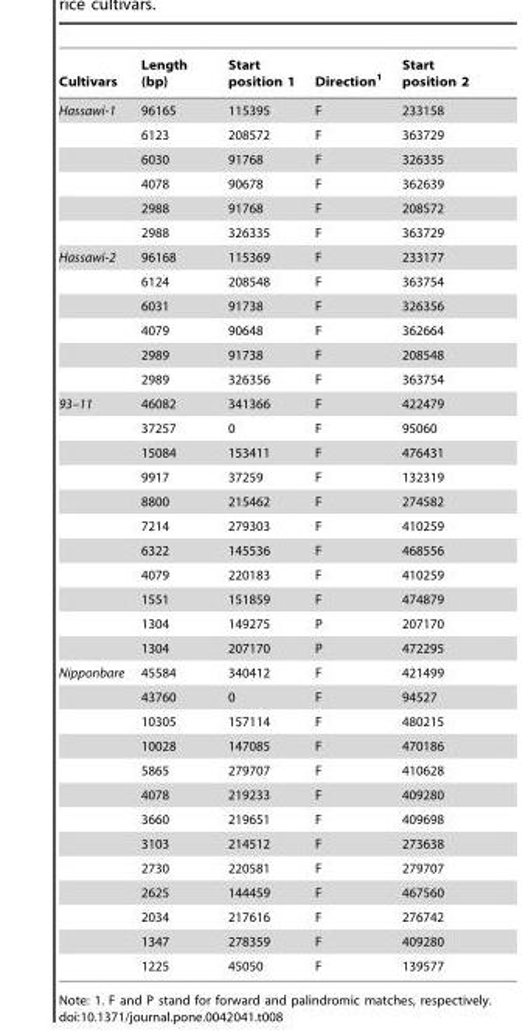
<table><thead><tr><td>Cultivars</td><td>Length (bp)</td><td>Start position 1</td><td>Direction<sup>1</sup></td><td>Start position 2</td></tr></thead><tbody><tr><td rowspan="6">Hassawi-1</td><td>96165</td><td>115395</td><td>F</td><td>233158</td></tr><tr><td>6123</td><td>208572</td><td>F</td><td>363729</td></tr><tr><td>6030</td><td>91768</td><td>F</td><td>326335</td></tr><tr><td>4078</td><td>90678</td><td>F</td><td>362639</td></tr><tr><td>2988</td><td>91768</td><td>F</td><td>208572</td></tr><tr><td>2988</td><td>326335</td><td>F</td><td>363729</td></tr><tr><td rowspan="6">Hassawi-2</td><td>96168</td><td>115369</td><td>F</td><td>233177</td></tr><tr><td>6124</td><td>208548</td><td>F</td><td>363754</td></tr><tr><td>6031</td><td>91738</td><td>F</td><td>326356</td></tr><tr><td>4079</td><td>90648</td><td>F</td><td>362664</td></tr><tr><td>2989</td><td>91738</td><td>F</td><td>208548</td></tr><tr><td>2989</td><td>326356</td><td>F</td><td>363754</td></tr><tr><td rowspan="11">93–11</td><td>46082</td><td>341366</td><td>F</td><td>422479</td></tr><tr><td>37257</td><td>0</td><td>F</td><td>95060</td></tr><tr><td>15084</td><td>153411</td><td>F</td><td>476431</td></tr><tr><td>9917</td><td>37259</td><td>F</td><td>132319</td></tr><tr><td>8800</td><td>215462</td><td>F</td><td>274582</td></tr><tr><td>7214</td><td>279303</td><td>F</td><td>410259</td></tr><tr><td>6322</td><td>145536</td><td>F</td><td>468556</td></tr><tr><td>4079</td><td>220183</td><td>F</td><td>410259</td></tr><tr><td>1551</td><td>151859</td><td>F</td><td>474879</td></tr><tr><td>1304</td><td>149275</td><td>P</td><td>207170</td></tr><tr><td>1304</td><td>207170</td><td>P</td><td>472295</td></tr><tr><td rowspan="13">Nipponbare</td><td>45584</td><td>340412</td><td>F</td><td>421499</td></tr><tr><td>43760</td><td>0</td><td>F</td><td>94527</td></tr><tr><td>10305</td><td>157114</td><td>F</td><td>480215</td></tr><tr><td>10028</td><td>147085</td><td>F</td><td>470186</td></tr><tr><td>5865</td><td>279707</td><td>F</td><td>410628</td></tr><tr><td>4078</td><td>219233</td><td>F</td><td>409280</td></tr><tr><td>3660</td><td>219651</td><td>F</td><td>409698</td></tr><tr><td>3103</td><td>214512</td><td>F</td><td>273638</td></tr><tr><td>2730</td><td>220581</td><td>F</td><td>279707</td></tr><tr><td>2625</td><td>144459</td><td>F</td><td>467560</td></tr><tr><td>2034</td><td>217616</td><td>F</td><td>276742</td></tr><tr><td>1347</td><td>278359</td><td>F</td><td>409280</td></tr><tr><td>1225</td><td>45050</td><td>F</td><td>139577</td></tr></tbody></table>